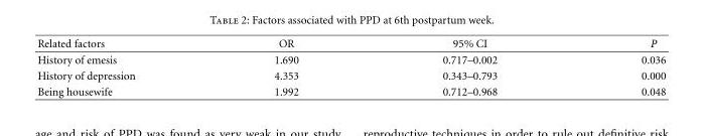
<table><thead><tr><td>Related factors</td><td>OR</td><td>95% CI</td><td>P</td></tr></thead><tbody><tr><td>History of emesis</td><td>1.690</td><td>0.717–0.002</td><td>0.036</td></tr><tr><td>History of depression</td><td>4.353</td><td>0.343–0.793</td><td>0.000</td></tr><tr><td>Being housewife</td><td>1.992</td><td>0.712–0.968</td><td>0.048</td></tr></tbody></table>